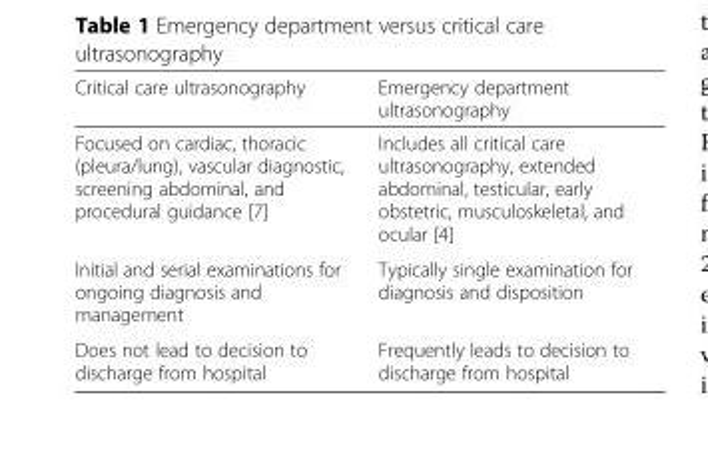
<table><thead><tr><td>Critical care ultrasonography</td><td>Emergency department ultrasonography</td></tr></thead><tbody><tr><td>Focused on cardiac, thoracic (pleura/lung), vascular diagnostic, screening abdominal, and procedural guidance [7]</td><td>Includes all critical care ultrasonography, extended abdominal, testicular, early obstetric, musculoskeletal, and ocular [4]</td></tr><tr><td>Initial and serial examinations for ongoing diagnosis and management</td><td>Typically single examination for diagnosis and disposition</td></tr><tr><td>Does not lead to decision to discharge from hospital</td><td>Frequently leads to decision to discharge from hospital</td></tr></tbody></table>